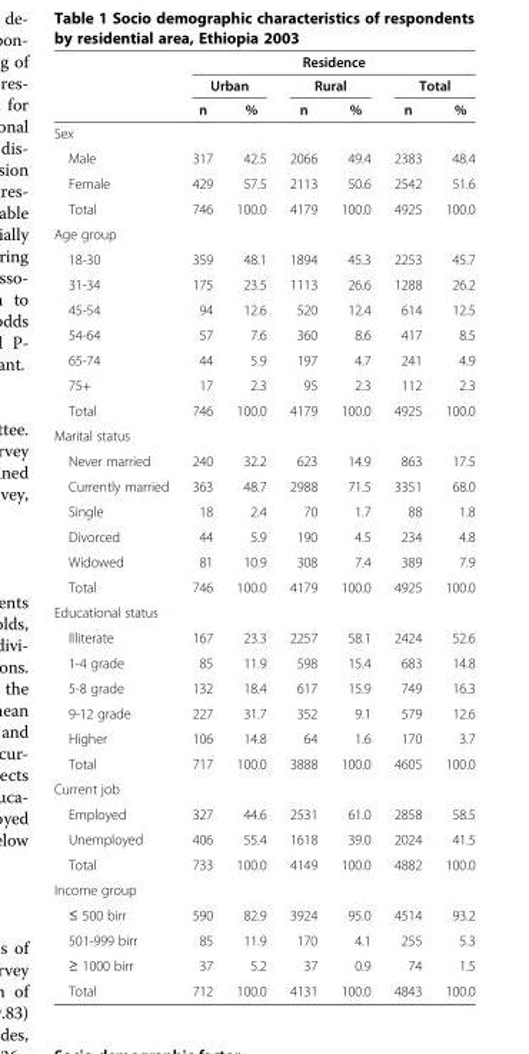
<table><thead><tr><td rowspan="3"></td><td colspan="6">Residence</td></tr><tr><td colspan="2">Urban</td><td colspan="2">Rural</td><td colspan="2">Total</td></tr><tr><td>n</td><td>%</td><td>n</td><td>%</td><td>n</td><td>%</td></tr></thead><tbody><tr><td colspan="7">Sex</td></tr><tr><td>Male</td><td>317</td><td>42.5</td><td>2066</td><td>49.4</td><td>2383</td><td>48.4</td></tr><tr><td>Female</td><td>429</td><td>57.5</td><td>2113</td><td>50.6</td><td>2542</td><td>51.6</td></tr><tr><td>Total</td><td>746</td><td>100.0</td><td>4179</td><td>100.0</td><td>4925</td><td>100.0</td></tr><tr><td colspan="7">Age group</td></tr><tr><td>18-30</td><td>359</td><td>48.1</td><td>1894</td><td>45.3</td><td>2253</td><td>45.7</td></tr><tr><td>31-34</td><td>175</td><td>23.5</td><td>1113</td><td>26.6</td><td>1288</td><td>26.2</td></tr><tr><td>45-54</td><td>94</td><td>12.6</td><td>520</td><td>12.4</td><td>614</td><td>12.5</td></tr><tr><td>54-64</td><td>57</td><td>7.6</td><td>360</td><td>8.6</td><td>417</td><td>8.5</td></tr><tr><td>65-74</td><td>44</td><td>5.9</td><td>197</td><td>4.7</td><td>241</td><td>4.9</td></tr><tr><td>75+</td><td>17</td><td>2.3</td><td>95</td><td>2.3</td><td>112</td><td>2.3</td></tr><tr><td>Total</td><td>746</td><td>100.0</td><td>4179</td><td>100.0</td><td>4925</td><td>100.0</td></tr><tr><td colspan="7">Marital status</td></tr><tr><td>Never married</td><td>240</td><td>32.2</td><td>623</td><td>14.9</td><td>863</td><td>17.5</td></tr><tr><td>Currently married</td><td>363</td><td>48.7</td><td>2988</td><td>71.5</td><td>3351</td><td>68.0</td></tr><tr><td>Single</td><td>18</td><td>2.4</td><td>70</td><td>1.7</td><td>88</td><td>1.8</td></tr><tr><td>Divorced</td><td>44</td><td>5.9</td><td>190</td><td>4.5</td><td>234</td><td>4.8</td></tr><tr><td>Widowed</td><td>81</td><td>10.9</td><td>308</td><td>7.4</td><td>389</td><td>7.9</td></tr><tr><td>Total</td><td>746</td><td>100.0</td><td>4179</td><td>100.0</td><td>4925</td><td>100.0</td></tr><tr><td colspan="7">Educational status</td></tr><tr><td>Illiterate</td><td>167</td><td>23.3</td><td>2257</td><td>58.1</td><td>2424</td><td>52.6</td></tr><tr><td>1-4 grade</td><td>85</td><td>11.9</td><td>598</td><td>15.4</td><td>683</td><td>14.8</td></tr><tr><td>5-8 grade</td><td>132</td><td>18.4</td><td>617</td><td>15.9</td><td>749</td><td>16.3</td></tr><tr><td>9-12 grade</td><td>227</td><td>31.7</td><td>352</td><td>9.1</td><td>579</td><td>12.6</td></tr><tr><td>Higher</td><td>106</td><td>14.8</td><td>64</td><td>1.6</td><td>170</td><td>3.7</td></tr><tr><td>Total</td><td>717</td><td>100.0</td><td>3888</td><td>100.0</td><td>4605</td><td>100.0</td></tr><tr><td colspan="7">Current job</td></tr><tr><td>Employed</td><td>327</td><td>44.6</td><td>2531</td><td>61.0</td><td>2858</td><td>58.5</td></tr><tr><td>Unemployed</td><td>406</td><td>55.4</td><td>1618</td><td>39.0</td><td>2024</td><td>41.5</td></tr><tr><td>Total</td><td>733</td><td>100.0</td><td>4149</td><td>100.0</td><td>4882</td><td>100.0</td></tr><tr><td colspan="7">Income group</td></tr><tr><td>≤ 500 birr</td><td>590</td><td>82.9</td><td>3924</td><td>95.0</td><td>4514</td><td>93.2</td></tr><tr><td>501-999 birr</td><td>85</td><td>11.9</td><td>170</td><td>4.1</td><td>255</td><td>5.3</td></tr><tr><td>≥ 1000 birr</td><td>37</td><td>5.2</td><td>37</td><td>0.9</td><td>74</td><td>1.5</td></tr><tr><td>Total</td><td>712</td><td>100.0</td><td>4131</td><td>100.0</td><td>4843</td><td>100.0</td></tr></tbody></table>